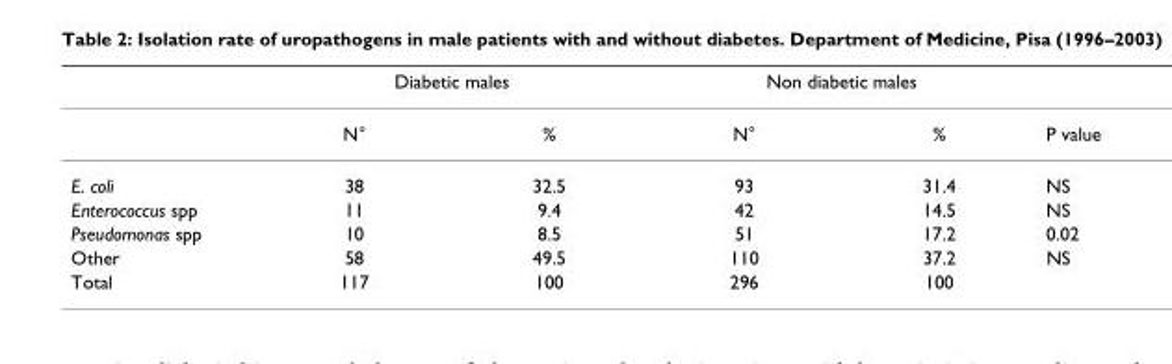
<table><thead><tr><td rowspan="2"></td><td colspan="2">Diabetic males</td><td colspan="2">Non diabetic males</td><td rowspan="2">P value</td></tr><tr><td>N°</td><td>%</td><td>N°</td><td>%</td></tr></thead><tbody><tr><td>E. coli</td><td>38</td><td>32.5</td><td>93</td><td>31.4</td><td>NS</td></tr><tr><td>Enterococcus spp</td><td>11</td><td>9.4</td><td>42</td><td>14.5</td><td>NS</td></tr><tr><td>Pseudomonas spp</td><td>10</td><td>8.5</td><td>51</td><td>17.2</td><td>0.02</td></tr><tr><td>Other</td><td>58</td><td>49.5</td><td>110</td><td>37.2</td><td>NS</td></tr><tr><td>Total</td><td>117</td><td>100</td><td>296</td><td>100</td><td></td></tr></tbody></table>